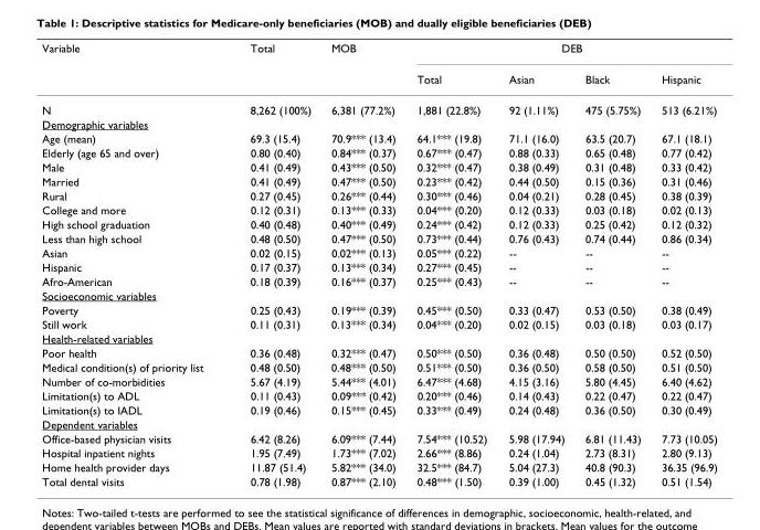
<table><thead><tr><td rowspan="2">Variable</td><td rowspan="2">Total</td><td rowspan="2">MOB</td><td colspan="4">DEB</td></tr><tr><td>Total</td><td>Asian</td><td>Black</td><td>Hispanic</td></tr></thead><tbody><tr><td>N</td><td>8,262 (100%)</td><td>6,381 (77.2%)</td><td>1,881 (22.8%)</td><td>92 (1.11%)</td><td>475 (5.75%)</td><td>513 (6.21%)</td></tr><tr><td colspan="7">Demographic variables</td></tr><tr><td>Age (mean)</td><td>69.3 (15.4)</td><td>70.9*** (13.4)</td><td>64.1*** (19.8)</td><td>71.1 (16.0)</td><td>63.5 (20.7)</td><td>67.1 (18.1)</td></tr><tr><td>Elderly (age 65 and over)</td><td>0.80 (0.40)</td><td>0.84*** (0.37)</td><td>0.67*** (0.47)</td><td>0.88 (0.33)</td><td>0.65 (0.48)</td><td>0.77 (0.42)</td></tr><tr><td>Male</td><td>0.41 (0.49)</td><td>0.43*** (0.50)</td><td>0.32*** (0.47)</td><td>0.38 (0.49)</td><td>0.31 (0.48)</td><td>0.33 (0.42)</td></tr><tr><td>Married</td><td>0.41 (0.49)</td><td>0.47*** (0.50)</td><td>0.23*** (0.42)</td><td>0.44 (0.50)</td><td>0.15 (0.36)</td><td>0.31 (0.46)</td></tr><tr><td>Rural</td><td>0.27 (0.45)</td><td>0.26*** (0.44)</td><td>0.30*** (0.46)</td><td>0.04 (0.21)</td><td>0.28 (0.45)</td><td>0.38 (0.39)</td></tr><tr><td>College and more</td><td>0.12 (0.31)</td><td>0.13*** (0.33)</td><td>0.04*** (0.20)</td><td>0.12 (0.33)</td><td>0.03 (0.18)</td><td>0.02 (0.13)</td></tr><tr><td>High school graduation</td><td>0.40 (0.48)</td><td>0.40*** (0.49)</td><td>0.24*** (0.42)</td><td>0.12 (0.33)</td><td>0.25 (0.42)</td><td>0.12 (0.32)</td></tr><tr><td>Less than high school</td><td>0.48 (0.50)</td><td>0.47*** (0.50)</td><td>0.73*** (0.44)</td><td>0.76 (0.43)</td><td>0.74 (0.44)</td><td>0.86 (0.34)</td></tr><tr><td>Asian</td><td>0.02 (0.15)</td><td>0.02*** (0.13)</td><td>0.05*** (0.22)</td><td>--</td><td>--</td><td>--</td></tr><tr><td>Hispanic</td><td>0.17 (0.37)</td><td>0.13*** (0.34)</td><td>0.27*** (0.45)</td><td>--</td><td>--</td><td>--</td></tr><tr><td>Afro-American</td><td>0.18 (0.39)</td><td>0.16*** (0.37)</td><td>0.25*** (0.43)</td><td>--</td><td>--</td><td>--</td></tr><tr><td colspan="7">Socioeconomic variables</td></tr><tr><td>Poverty</td><td>0.25 (0.43)</td><td>0.19*** (0.39)</td><td>0.45*** (0.50)</td><td>0.33 (0.47)</td><td>0.53 (0.50)</td><td>0.38 (0.49)</td></tr><tr><td>Still work</td><td>0.11 (0.31)</td><td>0.13*** (0.34)</td><td>0.04*** (0.20)</td><td>0.02 (0.15)</td><td>0.03 (0.18)</td><td>0.03 (0.17)</td></tr><tr><td colspan="7">Health-related variables</td></tr><tr><td>Poor health</td><td>0.36 (0.48)</td><td>0.32*** (0.47)</td><td>0.50*** (0.50)</td><td>0.36 (0.48)</td><td>0.50 (0.50)</td><td>0.52 (0.50)</td></tr><tr><td>Medical condition(s) of priority list</td><td>0.48 (0.50)</td><td>0.48*** (0.50)</td><td>0.51*** (0.50)</td><td>0.36 (0.50)</td><td>0.58 (0.50)</td><td>0.51 (0.50)</td></tr><tr><td>Number of co-morbidities</td><td>5.67 (4.19)</td><td>5.44*** (4.01)</td><td>6.47*** (4.68)</td><td>4.15 (3.16)</td><td>5.80 (4.45)</td><td>6.40 (4.62)</td></tr><tr><td>Limitation(s) to ADL</td><td>0.11 (0.43)</td><td>0.09*** (0.42)</td><td>0.20*** (0.46)</td><td>0.14 (0.43)</td><td>0.22 (0.47)</td><td>0.22 (0.47)</td></tr><tr><td>Limitation(s) to IADL</td><td>0.19 (0.46)</td><td>0.15*** (0.45)</td><td>0.33*** (0.49)</td><td>0.24 (0.48)</td><td>0.36 (0.50)</td><td>0.30 (0.49)</td></tr><tr><td colspan="7">Dependent variables</td></tr><tr><td>Office-based physician visits</td><td>6.42 (8.26)</td><td>6.09*** (7.44)</td><td>7.54*** (10.52)</td><td>5.98 (17.94)</td><td>6.81 (11.43)</td><td>7.73 (10.05)</td></tr><tr><td>Hospital inpatient nights</td><td>1.95 (7.49)</td><td>1.73*** (7.02)</td><td>2.66*** (8.86)</td><td>0.24 (1.04)</td><td>2.73 (8.31)</td><td>2.80 (9.13)</td></tr><tr><td>Home health provider days</td><td>11.87 (51.4)</td><td>5.82*** (34.0)</td><td>32.5*** (84.7)</td><td>5.04 (27.3)</td><td>40.8 (90.3)</td><td>36.35 (96.9)</td></tr><tr><td>Total dental visits</td><td>0.78 (1.98)</td><td>0.87*** (2.10)</td><td>0.48*** (1.50)</td><td>0.39 (1.00)</td><td>0.45 (1.32)</td><td>0.51 (1.54)</td></tr></tbody></table>